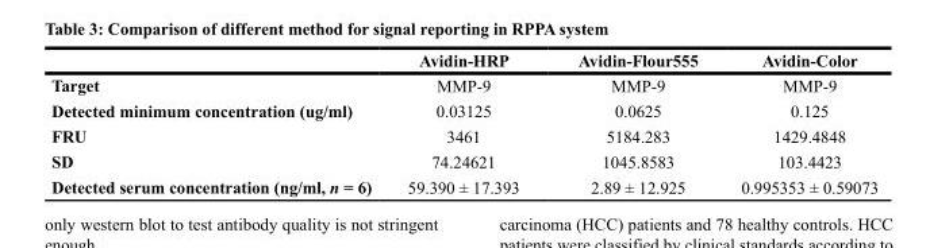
<table><thead><tr><td></td><td>Avidin-HRP</td><td>Avidin-Flour555</td><td>Avidin-Color</td></tr></thead><tbody><tr><td>Target</td><td>MMP-9</td><td>MMP-9</td><td>MMP-9</td></tr><tr><td>Detected minimum concentration (ug/ml)</td><td>0.03125</td><td>0.0625</td><td>0.125</td></tr><tr><td>FRU</td><td>3461</td><td>5184.283</td><td>1429.4848</td></tr><tr><td>SD</td><td>74.24621</td><td>1045.8583</td><td>103.4423</td></tr><tr><td>Detected serum concentration (ng/ml, n = 6)</td><td>59.390 ± 17.393</td><td>2.89 ± 12.925</td><td>0.995353 ± 0.59073</td></tr></tbody></table>